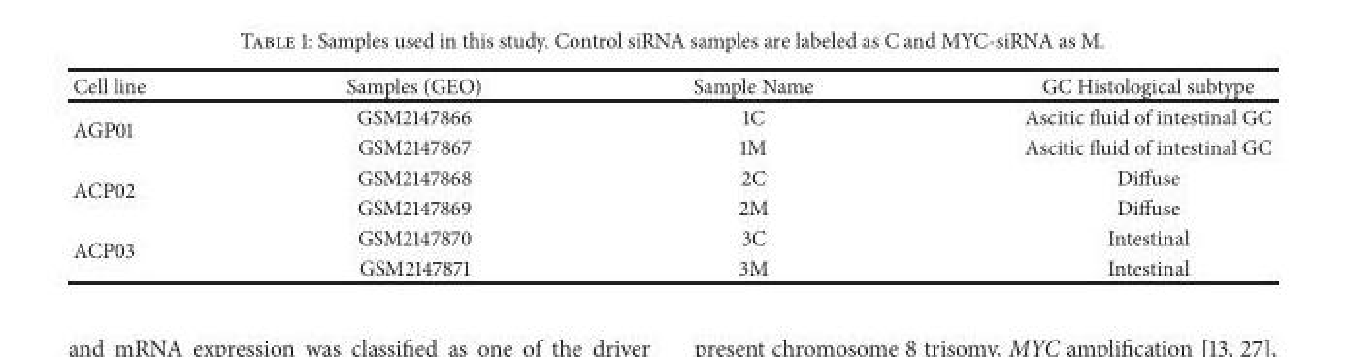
<table><thead><tr><td>Cell line</td><td>Samples (GEO)</td><td>Sample Name</td><td>GC Histological subtype</td></tr></thead><tbody><tr><td rowspan="2">AGP01</td><td>GSM2147866</td><td>1C</td><td>Ascitic fluid of intestinal GC</td></tr><tr><td>GSM2147867</td><td>1M</td><td>Ascitic fluid of intestinal GC</td></tr><tr><td rowspan="2">ACP02</td><td>GSM2147868</td><td>2C</td><td>Diffuse</td></tr><tr><td>GSM2147869</td><td>2M</td><td>Diffuse</td></tr><tr><td rowspan="2">ACP03</td><td>GSM2147870</td><td>3C</td><td>Intestinal</td></tr><tr><td>GSM2147871</td><td>3M</td><td>Intestinal</td></tr></tbody></table>